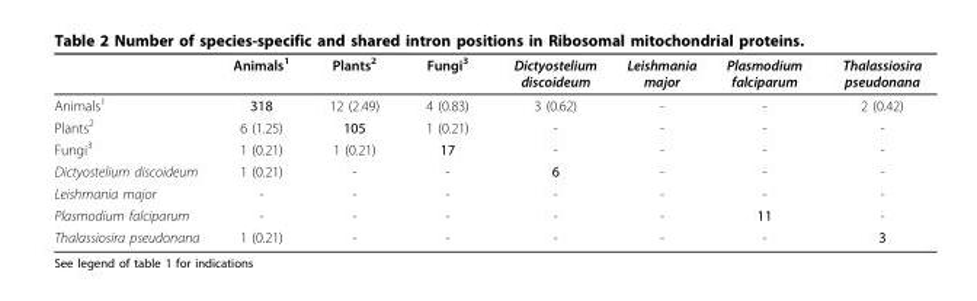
<table><thead><tr><td></td><td>Animals<sup>1</sup></td><td>Plants<sup>2</sup></td><td>Fungi<sup>3</sup></td><td>Dictyostelium discoideum</td><td>Leishmania major</td><td>Plasmodium falciparum</td><td>Thalassiosira pseudonana</td></tr></thead><tbody><tr><td>Animals<sup>1</sup></td><td>318</td><td>12 (2.49)</td><td>4 (0.83)</td><td>3 (0.62)</td><td>-</td><td>-</td><td>2 (0.42)</td></tr><tr><td>Plants<sup>2</sup></td><td>6 (1.25)</td><td>105</td><td>1 (0.21)</td><td>-</td><td>-</td><td>-</td><td>-</td></tr><tr><td>Fungi<sup>3</sup></td><td>1 (0.21)</td><td>1 (0.21)</td><td>17</td><td>-</td><td>-</td><td>-</td><td>-</td></tr><tr><td>Dictyostelium discoideum</td><td>1 (0.21)</td><td>-</td><td>-</td><td>6</td><td>-</td><td>-</td><td>-</td></tr><tr><td>Leishmania major</td><td>-</td><td>-</td><td>-</td><td>-</td><td>-</td><td>-</td><td>-</td></tr><tr><td>Plasmodium falciparum</td><td>-</td><td>-</td><td>-</td><td>-</td><td>-</td><td>11</td><td>-</td></tr><tr><td>Thalassiosira pseudonana</td><td>1 (0.21)</td><td>-</td><td>-</td><td>-</td><td>-</td><td>-</td><td>3</td></tr></tbody></table>